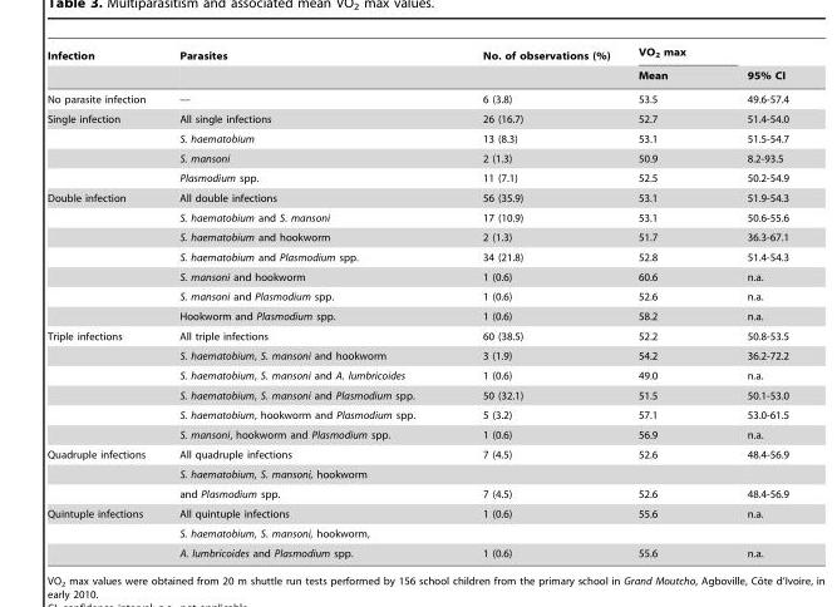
<table><thead><tr><td rowspan="2">Infection</td><td rowspan="2">Parasites</td><td rowspan="2">No. of observations (%)</td><td rowspan="2">VO<sub>2</sub> max Mean</td><td rowspan="2">95% CI</td></tr><tr></tr></thead><tbody><tr><td>No parasite infection</td><td>---</td><td>6 (3.8)</td><td>53.5</td><td>49.6-57.4</td></tr><tr><td rowspan="4">Single infection</td><td>All single infections</td><td>26 (16.7)</td><td>52.7</td><td>51.4-54.0</td></tr><tr><td>S. haematobium</td><td>13 (8.3)</td><td>53.1</td><td>51.5-54.7</td></tr><tr><td>S. mansoni</td><td>2 (1.3)</td><td>50.9</td><td>8.2-93.5</td></tr><tr><td>Plasmodium spp.</td><td>11 (7.1)</td><td>52.5</td><td>50.2-54.9</td></tr><tr><td rowspan="7">Double infection</td><td>All double infections</td><td>56 (35.9)</td><td>53.1</td><td>51.9-54.3</td></tr><tr><td>S. haematobium and S. mansoni</td><td>17 (10.9)</td><td>53.1</td><td>50.6-55.6</td></tr><tr><td>S. haematobium and hookworm</td><td>2 (1.3)</td><td>51.7</td><td>36.3-67.1</td></tr><tr><td>S. haematobium and Plasmodium spp.</td><td>34 (21.8)</td><td>52.8</td><td>51.4-54.3</td></tr><tr><td>S. mansoni and hookworm</td><td>1 (0.6)</td><td>60.6</td><td>n.a.</td></tr><tr><td>S. mansoni and Plasmodium spp.</td><td>1 (0.6)</td><td>52.6</td><td>n.a.</td></tr><tr><td>Hookworm and Plasmodium spp.</td><td>1 (0.6)</td><td>58.2</td><td>n.a.</td></tr><tr><td rowspan="6">Triple infections</td><td>All triple infections</td><td>60 (38.5)</td><td>52.2</td><td>50.8-53.5</td></tr><tr><td>S. haematobium, S. mansoni and hookworm</td><td>3 (1.9)</td><td>54.2</td><td>36.2-72.2</td></tr><tr><td>S. haematobium, S. mansoni and A. lumbricoides</td><td>1 (0.6)</td><td>49.0</td><td>n.a.</td></tr><tr><td>S. haematobium, S. mansoni and Plasmodium spp.</td><td>50 (32.1)</td><td>51.5</td><td>50.1-53.0</td></tr><tr><td>S. haematobium, hookworm and Plasmodium spp.</td><td>5 (3.2)</td><td>57.1</td><td>53.0-61.5</td></tr><tr><td>S. mansoni, hookworm and Plasmodium spp.</td><td>1 (0.6)</td><td>56.9</td><td>n.a.</td></tr><tr><td rowspan="3">Quadruple infections</td><td>All quadruple infections</td><td>7 (4.5)</td><td>52.6</td><td>48.4-56.9</td></tr><tr><td>S. haematobium, S. mansoni, hookworm</td><td></td><td></td><td></td></tr><tr><td>and Plasmodium spp.</td><td>7 (4.5)</td><td>52.6</td><td>48.4-56.9</td></tr><tr><td rowspan="3">Quintuple infections</td><td>All quintuple infections</td><td>1 (0.6)</td><td>55.6</td><td>n.a.</td></tr><tr><td>S. haematobium, S. mansoni, hookworm,</td><td></td><td></td><td></td></tr><tr><td>A. lumbricoides and Plasmodium spp.</td><td>1 (0.6)</td><td>55.6</td><td>n.a.</td></tr></tbody></table>